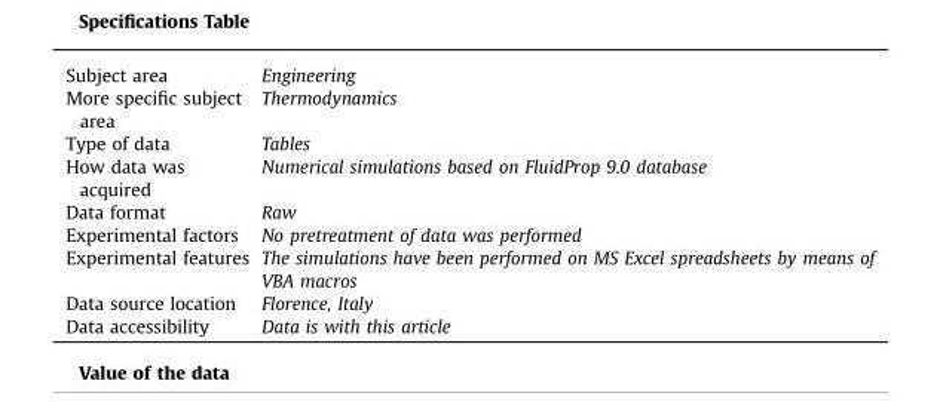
<table><tbody><tr><td>Subject area</td><td>Engineering</td></tr><tr><td>More specific subject area</td><td>Thermodynamics</td></tr><tr><td>Type of data</td><td>Tables</td></tr><tr><td>How data was acquired</td><td>Numerical simulations based on FluidProp 9.0 database</td></tr><tr><td>Data format</td><td>Raw</td></tr><tr><td>Experimental factors</td><td>No pretreatment of data was performed</td></tr><tr><td>Experimental features</td><td>The simulations have been performed on MS Excel spreadsheets by means of VBA macros</td></tr><tr><td>Data source location</td><td>Florence, Italy</td></tr><tr><td>Data accessibility</td><td>Data is with this article</td></tr></tbody></table>